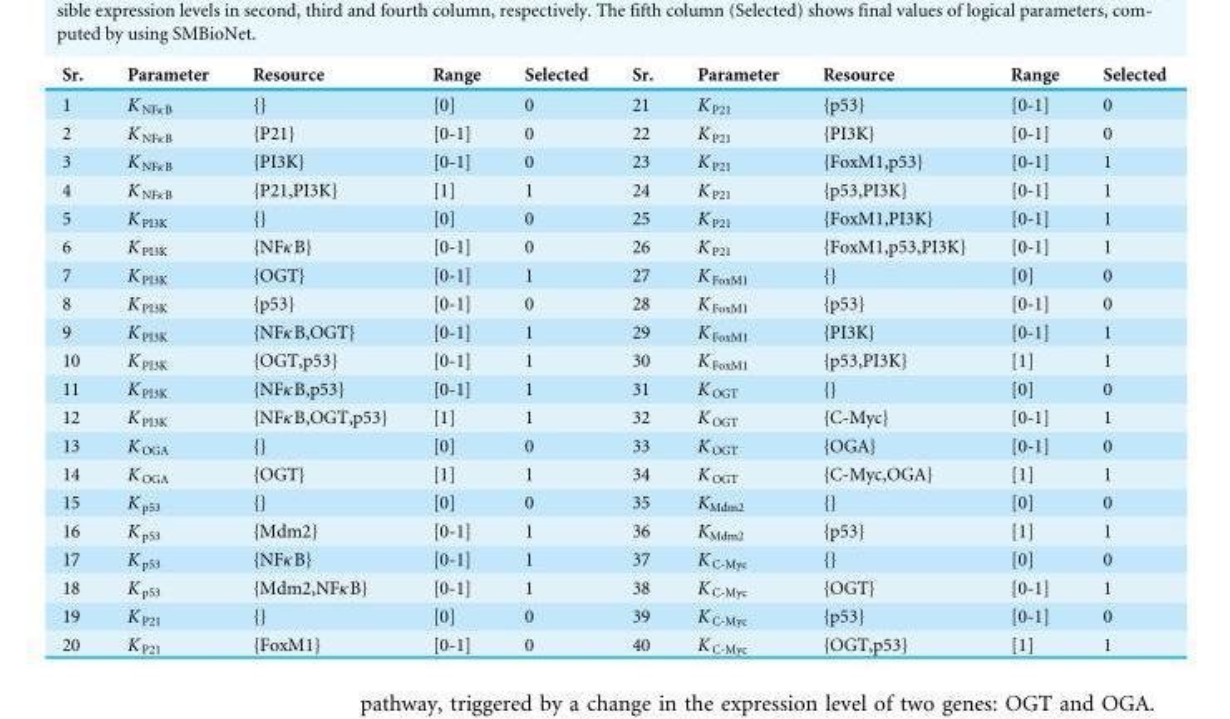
<table><thead><tr><td>Sr.</td><td>Parameter</td><td>Resource</td><td>Range</td><td>Selected</td><td>Sr.</td><td>Parameter</td><td>Resource</td><td>Range</td><td>Selected</td></tr></thead><tbody><tr><td>1</td><td>K <sub>NFκB</sub></td><td>{}</td><td>[0]</td><td>0</td><td>21</td><td>K <sub>P21</sub></td><td>{p53}</td><td>[0-1]</td><td>0</td></tr><tr><td>2</td><td>K <sub>NFκB</sub></td><td>{P21}</td><td>[0-1]</td><td>0</td><td>22</td><td>K <sub>P21</sub></td><td>{PI3K}</td><td>[0-1]</td><td>0</td></tr><tr><td>3</td><td>K <sub>NFκB</sub></td><td>{PI3K}</td><td>[0-1]</td><td>0</td><td>23</td><td>K <sub>P21</sub></td><td>{FoxM1,p53}</td><td>[0-1]</td><td>1</td></tr><tr><td>4</td><td>K <sub>NFκB</sub></td><td>{P21,PI3K}</td><td>[1]</td><td>1</td><td>24</td><td>K <sub>P21</sub></td><td>{p53,PI3K}</td><td>[0-1]</td><td>1</td></tr><tr><td>5</td><td>K <sub>PI3K</sub></td><td>{}</td><td>[0]</td><td>0</td><td>25</td><td>K <sub>P21</sub></td><td>{FoxM1,PI3K}</td><td>[0-1]</td><td>1</td></tr><tr><td>6</td><td>K <sub>PI3K</sub></td><td>{NFκB}</td><td>[0-1]</td><td>0</td><td>26</td><td>K <sub>P21</sub></td><td>{FoxM1,p53,PI3K}</td><td>[0-1]</td><td>1</td></tr><tr><td>7</td><td>K <sub>PI3K</sub></td><td>{OGT}</td><td>[0-1]</td><td>1</td><td>27</td><td>K <sub>FoxM1</sub></td><td>{}</td><td>[0]</td><td>0</td></tr><tr><td>8</td><td>K <sub>PI3K</sub></td><td>{p53}</td><td>[0-1]</td><td>0</td><td>28</td><td>K <sub>FoxM1</sub></td><td>{p53}</td><td>[0-1]</td><td>0</td></tr><tr><td>9</td><td>K <sub>PI3K</sub></td><td>{NFκB,OGT}</td><td>[0-1]</td><td>1</td><td>29</td><td>K <sub>FoxM1</sub></td><td>{PI3K}</td><td>[0-1]</td><td>1</td></tr><tr><td>10</td><td>K <sub>PI3K</sub></td><td>{OGT,p53}</td><td>[0-1]</td><td>1</td><td>30</td><td>K <sub>FoxM1</sub></td><td>{p53,PI3K}</td><td>[1]</td><td>1</td></tr><tr><td>11</td><td>K <sub>PI3K</sub></td><td>{NFκB,p53}</td><td>[0-1]</td><td>1</td><td>31</td><td>K <sub>OGT</sub></td><td>{}</td><td>[0]</td><td>0</td></tr><tr><td>12</td><td>K <sub>PI3K</sub></td><td>{NFκB,OGT,p53}</td><td>[1]</td><td>1</td><td>32</td><td>K <sub>OGT</sub></td><td>{C-Myc}</td><td>[0-1]</td><td>1</td></tr><tr><td>13</td><td>K <sub>OGA</sub></td><td>{}</td><td>[0]</td><td>0</td><td>33</td><td>K <sub>OGT</sub></td><td>{OGA}</td><td>[0-1]</td><td>0</td></tr><tr><td>14</td><td>K <sub>OGA</sub></td><td>{OGT}</td><td>[1]</td><td>1</td><td>34</td><td>K <sub>OGT</sub></td><td>{C-Myc,OGA}</td><td>[1]</td><td>1</td></tr><tr><td>15</td><td>K <sub>p53</sub></td><td>{}</td><td>[0]</td><td>0</td><td>35</td><td>K<sub>Mdm2</sub></td><td>{}</td><td>[0]</td><td>0</td></tr><tr><td>16</td><td>K <sub>p53</sub></td><td>{Mdm2}</td><td>[0-1]</td><td>1</td><td>36</td><td>K<sub>Mdm2</sub></td><td>{p53}</td><td>[1]</td><td>1</td></tr><tr><td>17</td><td>K <sub>p53</sub></td><td>{NFκB}</td><td>[0-1]</td><td>1</td><td>37</td><td>K <sub>C-Myc</sub></td><td>{}</td><td>[0]</td><td>0</td></tr><tr><td>18</td><td>K <sub>p53</sub></td><td>{Mdm2,NFκB}</td><td>[0-1]</td><td>1</td><td>38</td><td>K <sub>C-Myc</sub></td><td>{OGT}</td><td>[0-1]</td><td>1</td></tr><tr><td>19</td><td>K <sub>P21</sub></td><td>{}</td><td>[0]</td><td>0</td><td>39</td><td>K <sub>C-Myc</sub></td><td>{p53}</td><td>[0-1]</td><td>0</td></tr><tr><td>20</td><td>K <sub>P21</sub></td><td>{FoxM1}</td><td>[0-1]</td><td>0</td><td>40</td><td>K <sub>C-Myc</sub></td><td>{OGT,p53}</td><td>[1]</td><td>1</td></tr></tbody></table>